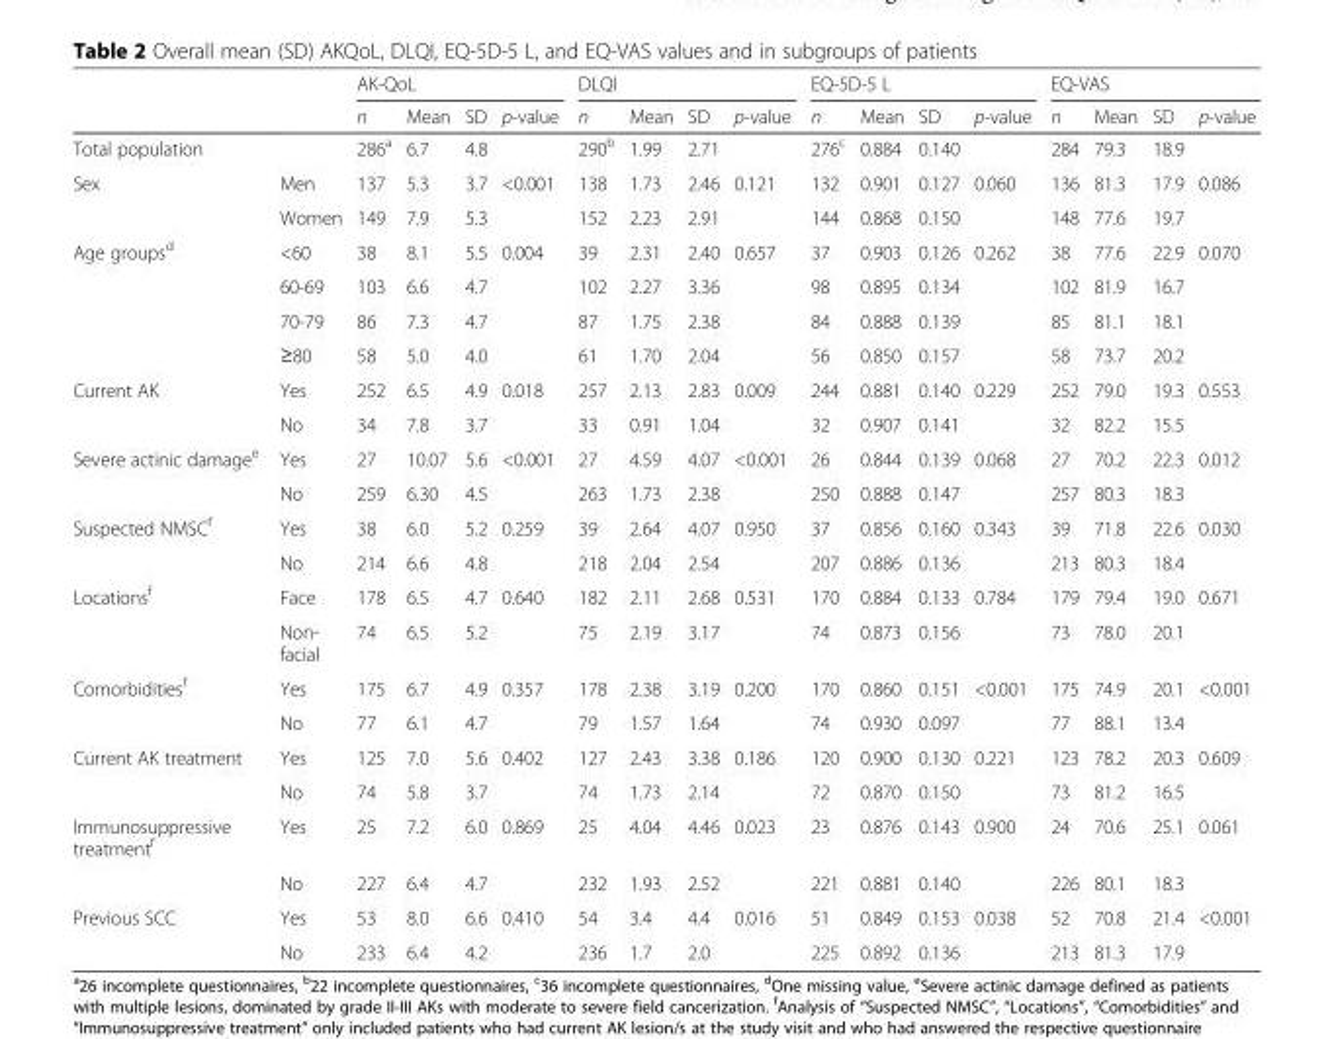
<table><thead><tr><td rowspan="2"></td><td rowspan="2"></td><td colspan="4">AK-QoL</td><td colspan="4">DLQI</td><td colspan="4">EQ-5D-5 L</td><td colspan="4">EQ-VAS</td></tr><tr><td>n</td><td>Mean</td><td>SD</td><td>p-value</td><td>n</td><td>Mean</td><td>SD</td><td>p-value</td><td>n</td><td>Mean</td><td>SD</td><td>p-value</td><td>n</td><td>Mean</td><td>SD</td><td>p-value</td></tr></thead><tbody><tr><td>Total population</td><td></td><td>286<sup>a</sup></td><td>6.7</td><td>4.8</td><td></td><td>290<sup>b</sup></td><td>1.99</td><td>2.71</td><td></td><td>276<sup>c</sup></td><td>0.884</td><td>0.140</td><td></td><td>284</td><td>79.3</td><td>18.9</td><td></td></tr><tr><td rowspan="2">Sex</td><td>Men</td><td>137</td><td>5.3</td><td>3.7</td><td>&lt;0.001</td><td>138</td><td>1.73</td><td>2.46</td><td>0.121</td><td>132</td><td>0.901</td><td>0.127</td><td>0.060</td><td>136</td><td>81.3</td><td>17.9</td><td>0.086</td></tr><tr><td>Women</td><td>149</td><td>7.9</td><td>5.3</td><td></td><td>152</td><td>2.23</td><td>2.91</td><td></td><td>144</td><td>0.868</td><td>0.150</td><td></td><td>148</td><td>77.6</td><td>19.7</td><td></td></tr><tr><td rowspan="4">Age groups<sup>d</sup></td><td>&lt;60</td><td>38</td><td>8.1</td><td>5.5</td><td>0.004</td><td>39</td><td>2.31</td><td>2.40</td><td>0.657</td><td>37</td><td>0.903</td><td>0.126</td><td>0.262</td><td>38</td><td>77.6</td><td>22.9</td><td>0.070</td></tr><tr><td>60-69</td><td>103</td><td>6.6</td><td>4.7</td><td></td><td>102</td><td>2.27</td><td>3.36</td><td></td><td>98</td><td>0.895</td><td>0.134</td><td></td><td>102</td><td>81.9</td><td>16.7</td><td></td></tr><tr><td>70-79</td><td>86</td><td>7.3</td><td>4.7</td><td></td><td>87</td><td>1.75</td><td>2.38</td><td></td><td>84</td><td>0.888</td><td>0.139</td><td></td><td>85</td><td>81.1</td><td>18.1</td><td></td></tr><tr><td>≥80</td><td>58</td><td>5.0</td><td>4.0</td><td></td><td>61</td><td>1.70</td><td>2.04</td><td></td><td>56</td><td>0.850</td><td>0.157</td><td></td><td>58</td><td>73.7</td><td>20.2</td><td></td></tr><tr><td rowspan="2">Current AK</td><td>Yes</td><td>252</td><td>6.5</td><td>4.9</td><td>0.018</td><td>257</td><td>2.13</td><td>2.83</td><td>0.009</td><td>244</td><td>0.881</td><td>0.140</td><td>0.229</td><td>252</td><td>79.0</td><td>19.3</td><td>0.553</td></tr><tr><td>No</td><td>34</td><td>7.8</td><td>3.7</td><td></td><td>33</td><td>0.91</td><td>1.04</td><td></td><td>32</td><td>0.907</td><td>0.141</td><td></td><td>32</td><td>82.2</td><td>15.5</td><td></td></tr><tr><td rowspan="2">Severe actinic damage<sup>e</sup></td><td>Yes</td><td>27</td><td>10.07</td><td>5.6</td><td>&lt;0.001</td><td>27</td><td>4.59</td><td>4.07</td><td>&lt;0.001</td><td>26</td><td>0.844</td><td>0.139</td><td>0.068</td><td>27</td><td>70.2</td><td>22.3</td><td>0.012</td></tr><tr><td>No</td><td>259</td><td>6.30</td><td>4.5</td><td></td><td>263</td><td>1.73</td><td>2.38</td><td></td><td>250</td><td>0.888</td><td>0.147</td><td></td><td>257</td><td>80.3</td><td>18.3</td><td></td></tr><tr><td rowspan="2">Suspected NMSC<sup>f</sup></td><td>Yes</td><td>38</td><td>6.0</td><td>5.2</td><td>0.259</td><td>39</td><td>2.64</td><td>4.07</td><td>0.950</td><td>37</td><td>0.856</td><td>0.160</td><td>0.343</td><td>39</td><td>71.8</td><td>22.6</td><td>0.030</td></tr><tr><td>No</td><td>214</td><td>6.6</td><td>4.8</td><td></td><td>218</td><td>2.04</td><td>2.54</td><td></td><td>207</td><td>0.886</td><td>0.136</td><td></td><td>213</td><td>80.3</td><td>18.4</td><td></td></tr><tr><td rowspan="2">Locations<sup>f</sup></td><td>Face</td><td>178</td><td>6.5</td><td>4.7</td><td>0.640</td><td>182</td><td>2.11</td><td>2.68</td><td>0.531</td><td>170</td><td>0.884</td><td>0.133</td><td>0.784</td><td>179</td><td>79.4</td><td>19.0</td><td>0.671</td></tr><tr><td>Non- facial</td><td>74</td><td>6.5</td><td>5.2</td><td></td><td>75</td><td>2.19</td><td>3.17</td><td></td><td>74</td><td>0.873</td><td>0.156</td><td></td><td>73</td><td>78.0</td><td>20.1</td><td></td></tr><tr><td rowspan="2">Comorbidities<sup>f</sup></td><td>Yes</td><td>175</td><td>6.7</td><td>4.9</td><td>0.357</td><td>178</td><td>2.38</td><td>3.19</td><td>0.200</td><td>170</td><td>0.860</td><td>0.151</td><td>&lt;0.001</td><td>175</td><td>74.9</td><td>20.1</td><td>&lt;0.001</td></tr><tr><td>No</td><td>77</td><td>6.1</td><td>4.7</td><td></td><td>79</td><td>1.57</td><td>1.64</td><td></td><td>74</td><td>0.930</td><td>0.097</td><td></td><td>77</td><td>88.1</td><td>13.4</td><td></td></tr><tr><td rowspan="2">Current AK treatment</td><td>Yes</td><td>125</td><td>7.0</td><td>5.6</td><td>0.402</td><td>127</td><td>2.43</td><td>3.38</td><td>0.186</td><td>120</td><td>0.900</td><td>0.130</td><td>0.221</td><td>123</td><td>78.2</td><td>20.3</td><td>0.609</td></tr><tr><td>No</td><td>74</td><td>5.8</td><td>3.7</td><td></td><td>74</td><td>1.73</td><td>2.14</td><td></td><td>72</td><td>0.870</td><td>0.150</td><td></td><td>73</td><td>81.2</td><td>16.5</td><td></td></tr><tr><td rowspan="2">Immunosuppressive treatment<sup>f</sup></td><td>Yes</td><td>25</td><td>7.2</td><td>6.0</td><td>0.869</td><td>25</td><td>4.04</td><td>4.46</td><td>0.023</td><td>23</td><td>0.876</td><td>0.143</td><td>0.900</td><td>24</td><td>70.6</td><td>25.1</td><td>0.061</td></tr><tr><td>No</td><td>227</td><td>6.4</td><td>4.7</td><td></td><td>232</td><td>1.93</td><td>2.52</td><td></td><td>221</td><td>0.881</td><td>0.140</td><td></td><td>226</td><td>80.1</td><td>18.3</td><td></td></tr><tr><td rowspan="2">Previous SCC</td><td>Yes</td><td>53</td><td>8.0</td><td>6.6</td><td>0.410</td><td>54</td><td>3.4</td><td>4.4</td><td>0.016</td><td>51</td><td>0.849</td><td>0.153</td><td>0.038</td><td>52</td><td>70.8</td><td>21.4</td><td>&lt;0.001</td></tr><tr><td>No</td><td>233</td><td>6.4</td><td>4.2</td><td></td><td>236</td><td>1.7</td><td>2.0</td><td></td><td>225</td><td>0.892</td><td>0.136</td><td></td><td>213</td><td>81.3</td><td>17.9</td><td></td></tr></tbody></table>